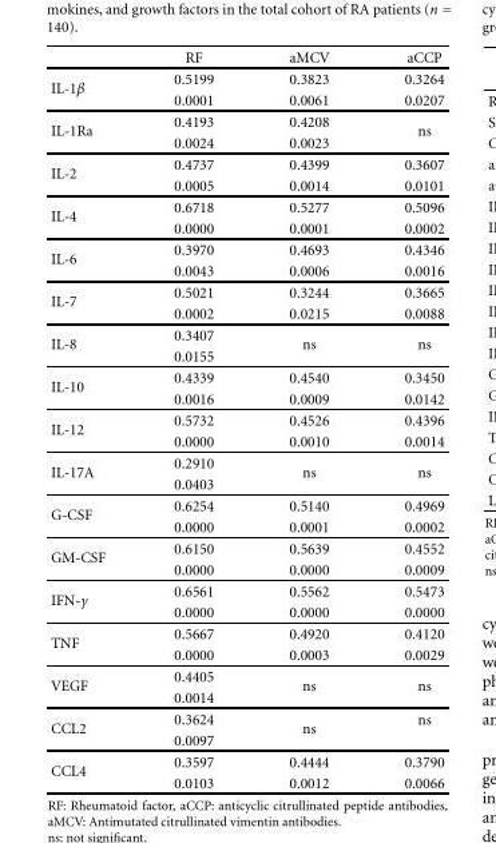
<table><thead><tr><td></td><td>RF</td><td>aMCV</td><td>aCCP</td></tr></thead><tbody><tr><td rowspan="2">IL-1β</td><td>0.5199</td><td>0.3823</td><td>0.3264</td></tr><tr><td>0.0001</td><td>0.0061</td><td>0.0207</td></tr><tr><td rowspan="2">IL-1Ra</td><td>0.4193</td><td>0.4208</td><td rowspan="2">ns</td></tr><tr><td>0.0024</td><td>0.0023</td></tr><tr><td rowspan="2">IL-2</td><td>0.4737</td><td>0.4399</td><td>0.3607</td></tr><tr><td>0.0005</td><td>0.0014</td><td>0.0101</td></tr><tr><td rowspan="2">IL-4</td><td>0.6718</td><td>0.5277</td><td>0.5096</td></tr><tr><td>0.0000</td><td>0.0001</td><td>0.0002</td></tr><tr><td rowspan="2">IL-6</td><td>0.3970</td><td>0.4693</td><td>0.4346</td></tr><tr><td>0.0043</td><td>0.0006</td><td>0.0016</td></tr><tr><td rowspan="2">IL-7</td><td>0.5021</td><td>0.3244</td><td>0.3665</td></tr><tr><td>0.0002</td><td>0.0215</td><td>0.0088</td></tr><tr><td rowspan="2">IL-8</td><td>0.3407</td><td rowspan="2">ns</td><td rowspan="2">ns</td></tr><tr><td>0.0155</td></tr><tr><td rowspan="2">IL-10</td><td>0.4339</td><td>0.4540</td><td>0.3450</td></tr><tr><td>0.0016</td><td>0.0009</td><td>0.0142</td></tr><tr><td rowspan="2">IL-12</td><td>0.5732</td><td>0.4526</td><td>0.4396</td></tr><tr><td>0.0000</td><td>0.0010</td><td>0.0014</td></tr><tr><td rowspan="2">IL-17A</td><td>0.2910</td><td rowspan="2">ns</td><td rowspan="2">ns</td></tr><tr><td>0.0403</td></tr><tr><td rowspan="2">G-CSF</td><td>0.6254</td><td>0.5140</td><td>0.4969</td></tr><tr><td>0.0000</td><td>0.0001</td><td>0.0002</td></tr><tr><td rowspan="2">GM-CSF</td><td>0.6150</td><td>0.5639</td><td>0.4552</td></tr><tr><td>0.0000</td><td>0.0000</td><td>0.0009</td></tr><tr><td rowspan="2">IFN-γ</td><td>0.6561</td><td>0.5562</td><td>0.5473</td></tr><tr><td>0.0000</td><td>0.0000</td><td>0.0000</td></tr><tr><td rowspan="2">TNF</td><td>0.5667</td><td>0.4920</td><td>0.4120</td></tr><tr><td>0.0000</td><td>0.0003</td><td>0.0029</td></tr><tr><td rowspan="2">VEGF</td><td>0.4405</td><td rowspan="2">ns</td><td rowspan="2">ns</td></tr><tr><td>0.0014</td></tr><tr><td rowspan="2">CCL2</td><td>0.3624</td><td rowspan="2">ns</td><td>ns</td></tr><tr><td>0.0097</td><td></td></tr><tr><td rowspan="2">CCL4</td><td>0.3597</td><td>0.4444</td><td>0.3790</td></tr><tr><td>0.0103</td><td>0.0012</td><td>0.0066</td></tr></tbody></table>